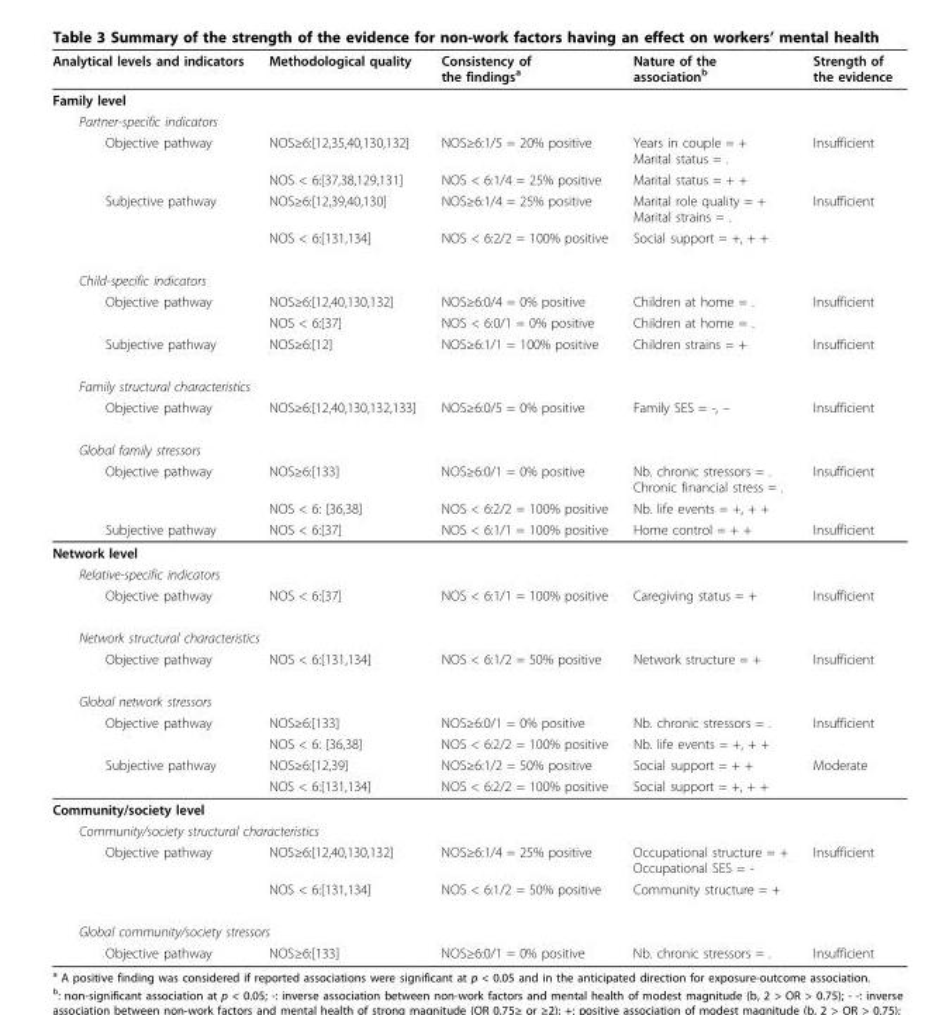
<table><thead><tr><td>Analytical levels and indicators</td><td>Methodological quality</td><td>Consistency of the findings<sup>a</sup></td><td>Nature of the association<sup>b</sup></td><td>Strength of the evidence</td></tr></thead><tbody><tr><td colspan="5">Family level</td></tr><tr><td colspan="5">Partner-specific indicators</td></tr><tr><td rowspan="2">Objective pathway</td><td>NOS≥6:[12,35,40,130,132]</td><td>NOS≥6:1/5 = 20% positive</td><td>Years in couple = + Marital status = .</td><td>Insufficient</td></tr><tr><td>NOS &lt; 6:[37,38,129,131]</td><td>NOS &lt; 6:1/4 = 25% positive</td><td>Marital status = + +</td><td></td></tr><tr><td rowspan="2">Subjective pathway</td><td>NOS≥6:[12,39,40,130]</td><td>NOS≥6:1/4 = 25% positive</td><td>Marital role quality = + Marital strains = .</td><td>Insufficient</td></tr><tr><td>NOS &lt; 6:[131,134]</td><td>NOS &lt; 6:2/2 = 100% positive</td><td>Social support = +, + +</td><td></td></tr><tr><td colspan="5">Child-specific indicators</td></tr><tr><td rowspan="2">Objective pathway</td><td>NOS≥6:[12,40,130,132]</td><td>NOS≥6:0/4 = 0% positive</td><td>Children at home = .</td><td>Insufficient</td></tr><tr><td>NOS &lt; 6:[37]</td><td>NOS &lt; 6:0/1 = 0% positive</td><td>Children at home = .</td><td></td></tr><tr><td>Subjective pathway</td><td>NOS≥6:[12]</td><td>NOS≥6:1/1 = 100% positive</td><td>Children strains = +</td><td>Insufficient</td></tr><tr><td colspan="5">Family structural characteristics</td></tr><tr><td>Objective pathway</td><td>NOS≥6:[12,40,130,132,133]</td><td>NOS≥6:0/5 = 0% positive</td><td>Family SES = -, –</td><td>Insufficient</td></tr><tr><td colspan="5">Global family stressors</td></tr><tr><td rowspan="2">Objective pathway</td><td>NOS≥6:[133]</td><td>NOS≥6:0/1 = 0% positive</td><td>Nb. chronic stressors = . Chronic financial stress = .</td><td>Insufficient</td></tr><tr><td>NOS &lt; 6: [36,38]</td><td>NOS &lt; 6:2/2 = 100% positive</td><td>Nb. life events = +, + +</td><td></td></tr><tr><td>Subjective pathway</td><td>NOS &lt; 6:[37]</td><td>NOS &lt; 6:1/1 = 100% positive</td><td>Home control = + +</td><td>Insufficient</td></tr><tr><td colspan="5">Network level</td></tr><tr><td colspan="5">Relative-specific indicators</td></tr><tr><td>Objective pathway</td><td>NOS &lt; 6:[37]</td><td>NOS &lt; 6:1/1 = 100% positive</td><td>Caregiving status = +</td><td>Insufficient</td></tr><tr><td colspan="5">Network structural characteristics</td></tr><tr><td>Objective pathway</td><td>NOS &lt; 6:[131,134]</td><td>NOS &lt; 6:1/2 = 50% positive</td><td>Network structure = +</td><td>Insufficient</td></tr><tr><td colspan="5">Global network stressors</td></tr><tr><td rowspan="2">Objective pathway</td><td>NOS≥6:[133]</td><td>NOS≥6:0/1 = 0% positive</td><td>Nb. chronic stressors = .</td><td>Insufficient</td></tr><tr><td>NOS &lt; 6: [36,38]</td><td>NOS &lt; 6:2/2 = 100% positive</td><td>Nb. life events = +, + +</td><td></td></tr><tr><td rowspan="2">Subjective pathway</td><td>NOS≥6:[12,39]</td><td>NOS≥6:1/2 = 50% positive</td><td>Social support = + +</td><td>Moderate</td></tr><tr><td>NOS &lt; 6:[131,134]</td><td>NOS &lt; 6:2/2 = 100% positive</td><td>Social support = +, + +</td><td></td></tr><tr><td colspan="5">Community/society level</td></tr><tr><td colspan="5">Community/society structural characteristics</td></tr><tr><td rowspan="2">Objective pathway</td><td>NOS≥6:[12,40,130,132]</td><td>NOS≥6:1/4 = 25% positive</td><td>Occupational structure = + Occupational SES = -</td><td>Insufficient</td></tr><tr><td>NOS &lt; 6:[131,134]</td><td>NOS &lt; 6:1/2 = 50% positive</td><td>Community structure = +</td><td></td></tr><tr><td colspan="5">Global community/society stressors</td></tr><tr><td>Objective pathway</td><td>NOS≥6:[133]</td><td>NOS≥6:0/1 = 0% positive</td><td>Nb. chronic stressors = .</td><td>Insufficient</td></tr></tbody></table>